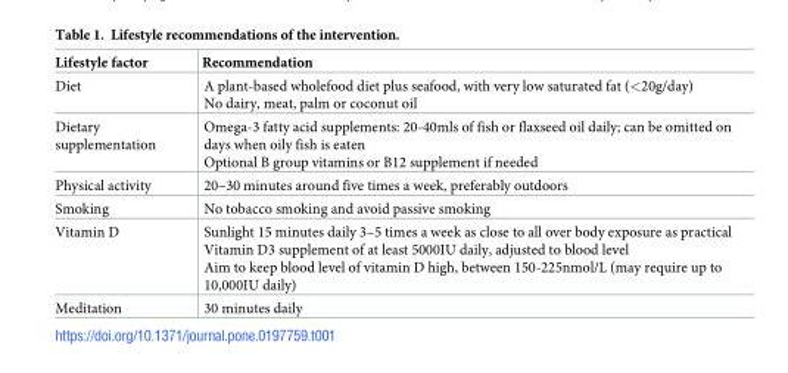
<table><thead><tr><td>Lifestyle factor</td><td>Recommendation</td></tr></thead><tbody><tr><td>Diet</td><td>A plant-based wholefood diet plus seafood, with very low saturated fat (&lt;20g/day) No dairy, meat, palm or coconut oil</td></tr><tr><td>Dietary supplementation</td><td>Omega-3 fatty acid supplements: 20-40mls of fish or flaxseed oil daily; can be omitted on days when oily fish is eaten Optional B group vitamins or B12 supplement if needed</td></tr><tr><td>Physical activity</td><td>20–30 minutes around five times a week, preferably outdoors</td></tr><tr><td>Smoking</td><td>No tobacco smoking and avoid passive smoking</td></tr><tr><td>Vitamin D</td><td>Sunlight 15 minutes daily 3–5 times a week as close to all over body exposure as practical Vitamin D3 supplement of at least 5000IU daily, adjusted to blood level Aim to keep blood level of vitamin D high, between 150-225nmol/L (may require up to 10,000IU daily)</td></tr><tr><td>Meditation</td><td>30 minutes daily</td></tr></tbody></table>